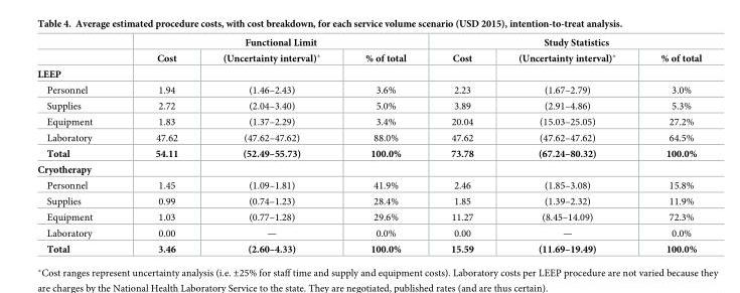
<table><thead><tr><td rowspan="2"></td><td colspan="3">Functional Limit</td><td colspan="3">Study Statistics</td></tr><tr><td>Cost</td><td>(Uncertainty interval)*</td><td>% of total</td><td>Cost</td><td>(Uncertainty interval)*</td><td>% of total</td></tr></thead><tbody><tr><td colspan="7">LEEP</td></tr><tr><td>Personnel</td><td>1.94</td><td>(1.46–2.43)</td><td>3.6%</td><td>2.23</td><td>(1.67–2.79)</td><td>3.0%</td></tr><tr><td>Supplies</td><td>2.72</td><td>(2.04–3.40)</td><td>5.0%</td><td>3.89</td><td>(2.91–4.86)</td><td>5.3%</td></tr><tr><td>Equipment</td><td>1.83</td><td>(1.37–2.29)</td><td>3.4%</td><td>20.04</td><td>(15.03–25.05)</td><td>27.2%</td></tr><tr><td>Laboratory</td><td>47.62</td><td>(47.62–47.62)</td><td>88.0%</td><td>47.62</td><td>(47.62–47.62)</td><td>64.5%</td></tr><tr><td>Total</td><td>54.11</td><td>(52.49–55.73)</td><td>100.0%</td><td>73.78</td><td>(67.24–80.32)</td><td>100.0%</td></tr><tr><td colspan="7">Cryotherapy</td></tr><tr><td>Personnel</td><td>1.45</td><td>(1.09–1.81)</td><td>41.9%</td><td>2.46</td><td>(1.85–3.08)</td><td>15.8%</td></tr><tr><td>Supplies</td><td>0.99</td><td>(0.74–1.23)</td><td>28.4%</td><td>1.85</td><td>(1.39–2.32)</td><td>11.9%</td></tr><tr><td>Equipment</td><td>1.03</td><td>(0.77–1.28)</td><td>29.6%</td><td>11.27</td><td>(8.45–14.09)</td><td>72.3%</td></tr><tr><td>Laboratory</td><td>0.00</td><td>—</td><td>0.0%</td><td>0.00</td><td>—</td><td>0.0%</td></tr><tr><td>Total</td><td>3.46</td><td>(2.60–4.33)</td><td>100.0%</td><td>15.59</td><td>(11.69–19.49)</td><td>100.0%</td></tr></tbody></table>